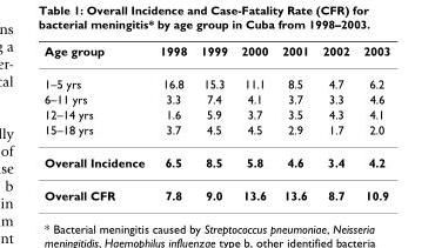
<table><thead><tr><td>Age group</td><td>1998</td><td>1999</td><td>2000</td><td>2001</td><td>2002</td><td>2003</td></tr></thead><tbody><tr><td>1–5 yrs</td><td>16.8</td><td>15.3</td><td>11.1</td><td>8.5</td><td>4.7</td><td>6.2</td></tr><tr><td>6–11 yrs</td><td>3.3</td><td>7.4</td><td>4.1</td><td>3.7</td><td>3.3</td><td>4.6</td></tr><tr><td>12–14 yrs</td><td>1.6</td><td>5.9</td><td>3.7</td><td>3.5</td><td>4.3</td><td>4.1</td></tr><tr><td>15–18 yrs</td><td>3.7</td><td>4.5</td><td>4.5</td><td>2.9</td><td>1.7</td><td>2.0</td></tr><tr><td>Overall Incidence</td><td>6.5</td><td>8.5</td><td>5.8</td><td>4.6</td><td>3.4</td><td>4.2</td></tr><tr><td>Overall CFR</td><td>7.8</td><td>9.0</td><td>13.6</td><td>13.6</td><td>8.7</td><td>10.9</td></tr></tbody></table>